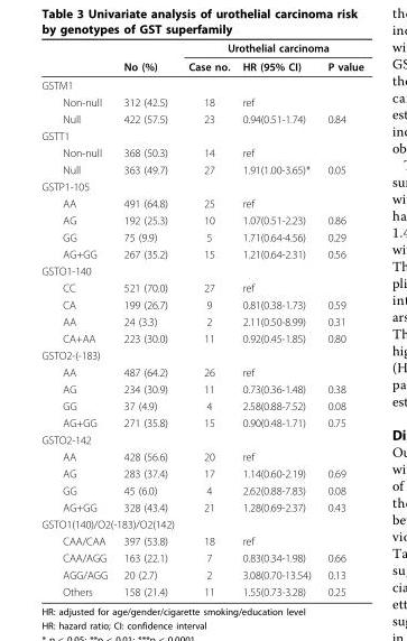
<table><thead><tr><td rowspan="2"></td><td rowspan="2">No (%)</td><td colspan="3">Urothelial carcinoma</td></tr><tr><td>Case no.</td><td>HR (95% CI)</td><td>P value</td></tr></thead><tbody><tr><td colspan="5">GSTM1</td></tr><tr><td>Non-null</td><td>312 (42.5)</td><td>18</td><td>ref</td><td></td></tr><tr><td>Null</td><td>422 (57.5)</td><td>23</td><td>0.94(0.51-1.74)</td><td>0.84</td></tr><tr><td colspan="5">GSTT1</td></tr><tr><td>Non-null</td><td>368 (50.3)</td><td>14</td><td>ref</td><td></td></tr><tr><td>Null</td><td>363 (49.7)</td><td>27</td><td>1.91(1.00-3.65)*</td><td>0.05</td></tr><tr><td colspan="5">GSTP1-105</td></tr><tr><td>AA</td><td>491 (64.8)</td><td>25</td><td>ref</td><td></td></tr><tr><td>AG</td><td>192 (25.3)</td><td>10</td><td>1.07(0.51-2.23)</td><td>0.86</td></tr><tr><td>GG</td><td>75 (9.9)</td><td>5</td><td>1.71(0.64-4.56)</td><td>0.29</td></tr><tr><td>AG+GG</td><td>267 (35.2)</td><td>15</td><td>1.21(0.64-2.31)</td><td>0.56</td></tr><tr><td colspan="5">GSTO1-140</td></tr><tr><td>CC</td><td>521 (70.0)</td><td>27</td><td>ref</td><td></td></tr><tr><td>CA</td><td>199 (26.7)</td><td>9</td><td>0.81(0.38-1.73)</td><td>0.59</td></tr><tr><td>AA</td><td>24 (3.3)</td><td>2</td><td>2.11(0.50-8.99)</td><td>0.31</td></tr><tr><td>CA+AA</td><td>223 (30.0)</td><td>11</td><td>0.92(0.45-1.85)</td><td>0.80</td></tr><tr><td colspan="5">GSTO2-(-183)</td></tr><tr><td>AA</td><td>487 (64.2)</td><td>26</td><td>ref</td><td></td></tr><tr><td>AG</td><td>234 (30.9)</td><td>11</td><td>0.73(0.36-1.48)</td><td>0.38</td></tr><tr><td>GG</td><td>37 (4.9)</td><td>4</td><td>2.58(0.88-7.52)</td><td>0.08</td></tr><tr><td>AG+GG</td><td>271 (35.8)</td><td>15</td><td>0.90(0.48-1.71)</td><td>0.75</td></tr><tr><td colspan="5">GSTO2-142</td></tr><tr><td>AA</td><td>428 (56.6)</td><td>20</td><td>ref</td><td></td></tr><tr><td>AG</td><td>283 (37.4)</td><td>17</td><td>1.14(0.60-2.19)</td><td>0.69</td></tr><tr><td>GG</td><td>45 (6.0)</td><td>4</td><td>2.62(0.88-7.83)</td><td>0.08</td></tr><tr><td>AG+GG</td><td>328 (43.4)</td><td>21</td><td>1.28(0.69-2.37)</td><td>0.43</td></tr><tr><td colspan="5">GSTO1(140)/O2(-183)/O2(142)</td></tr><tr><td>CAA/CAA</td><td>397 (53.8)</td><td>18</td><td>ref</td><td></td></tr><tr><td>CAA/AGG</td><td>163 (22.1)</td><td>7</td><td>0.83(0.34-1.98)</td><td>0.66</td></tr><tr><td>AGG/AGG</td><td>20 (2.7)</td><td>2</td><td>3.08(0.70-13.54)</td><td>0.13</td></tr><tr><td>Others</td><td>158 (21.4)</td><td>11</td><td>1.55(0.73-3.28)</td><td>0.25</td></tr></tbody></table>